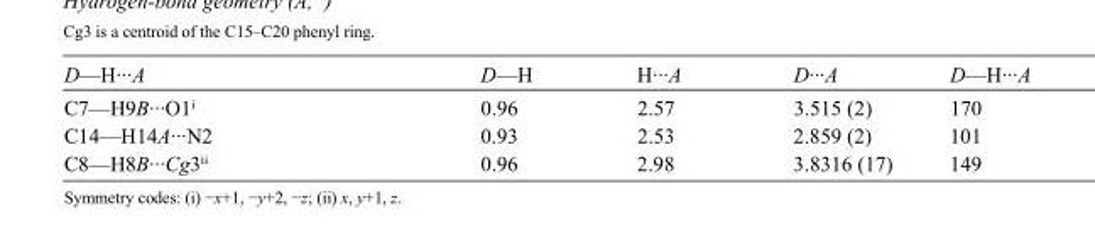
<table><tbody><tr><td>D—H···A</td><td>D—H</td><td>H···A</td><td>D···A</td><td>D—H···A</td></tr><tr><td>C7—H9B···O1<sup>i</sup></td><td>0.96</td><td>2.57</td><td>3.515 (2)</td><td>170</td></tr><tr><td>C14—H14A···N2</td><td>0.93</td><td>2.53</td><td>2.859 (2)</td><td>101</td></tr><tr><td>C8—H8B···Cg3<sup>ii</sup></td><td>0.96</td><td>2.98</td><td>3.8316 (17)</td><td>149</td></tr></tbody></table>